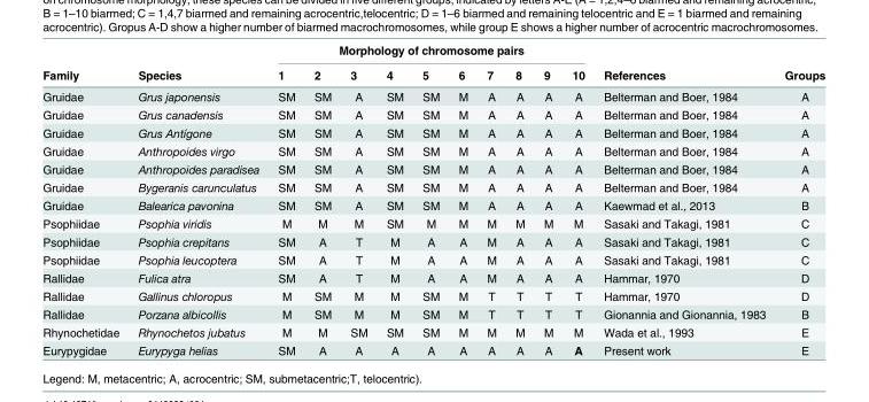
<table><thead><tr><td rowspan="2">Family</td><td rowspan="2">Species</td><td colspan="10">Morphology of chromosome pairs</td><td rowspan="2">References</td><td rowspan="2">Groups</td></tr><tr><td>1</td><td>2</td><td>3</td><td>4</td><td>5</td><td>6</td><td>7</td><td>8</td><td>9</td><td>10</td></tr></thead><tbody><tr><td>Gruidae</td><td>Grus japonensis</td><td>SM</td><td>SM</td><td>A</td><td>SM</td><td>SM</td><td>M</td><td>A</td><td>A</td><td>A</td><td>A</td><td>Belterman and Boer, 1984</td><td>A</td></tr><tr><td>Gruidae</td><td>Grus canadensis</td><td>SM</td><td>SM</td><td>A</td><td>SM</td><td>SM</td><td>M</td><td>A</td><td>A</td><td>A</td><td>A</td><td>Belterman and Boer, 1984</td><td>A</td></tr><tr><td>Gruidae</td><td>Grus Antígone</td><td>SM</td><td>SM</td><td>A</td><td>SM</td><td>SM</td><td>M</td><td>A</td><td>A</td><td>A</td><td>A</td><td>Belterman and Boer, 1984</td><td>A</td></tr><tr><td>Gruidae</td><td>Anthropoides virgo</td><td>SM</td><td>SM</td><td>A</td><td>SM</td><td>SM</td><td>M</td><td>A</td><td>A</td><td>A</td><td>A</td><td>Belterman and Boer, 1984</td><td>A</td></tr><tr><td>Gruidae</td><td>Anthropoides paradisea</td><td>SM</td><td>SM</td><td>A</td><td>SM</td><td>SM</td><td>M</td><td>A</td><td>A</td><td>A</td><td>A</td><td>Belterman and Boer, 1984</td><td>A</td></tr><tr><td>Gruidae</td><td>Bygeranis carunculatus</td><td>SM</td><td>SM</td><td>A</td><td>SM</td><td>SM</td><td>M</td><td>A</td><td>A</td><td>A</td><td>A</td><td>Belterman and Boer, 1984</td><td>A</td></tr><tr><td>Gruidae</td><td>Balearica pavonina</td><td>SM</td><td>SM</td><td>A</td><td>SM</td><td>SM</td><td>M</td><td>A</td><td>A</td><td>A</td><td>A</td><td>Kaewmad et al., 2013</td><td>B</td></tr><tr><td>Psophiidae</td><td>Psophia viridis</td><td>M</td><td>M</td><td>M</td><td>SM</td><td>M</td><td>M</td><td>M</td><td>M</td><td>M</td><td>M</td><td>Sasaki and Takagi, 1981</td><td>C</td></tr><tr><td>Psophiidae</td><td>Psophia crepitans</td><td>SM</td><td>A</td><td>T</td><td>M</td><td>A</td><td>A</td><td>M</td><td>A</td><td>A</td><td>A</td><td>Sasaki and Takagi, 1981</td><td>C</td></tr><tr><td>Psophiidae</td><td>Psophia leucoptera</td><td>SM</td><td>A</td><td>T</td><td>M</td><td>A</td><td>A</td><td>M</td><td>A</td><td>A</td><td>A</td><td>Sasaki and Takagi, 1981</td><td>C</td></tr><tr><td>Rallidae</td><td>Fulica atra</td><td>SM</td><td>A</td><td>T</td><td>M</td><td>A</td><td>A</td><td>M</td><td>A</td><td>A</td><td>A</td><td>Hammar, 1970</td><td>D</td></tr><tr><td>Rallidae</td><td>Gallinus chloropus</td><td>M</td><td>SM</td><td>M</td><td>M</td><td>SM</td><td>M</td><td>T</td><td>T</td><td>T</td><td>T</td><td>Hammar, 1970</td><td>D</td></tr><tr><td>Rallidae</td><td>Porzana albicollis</td><td>M</td><td>SM</td><td>M</td><td>M</td><td>SM</td><td>M</td><td>T</td><td>T</td><td>T</td><td>T</td><td>Gionannia and Gionannia, 1983</td><td>B</td></tr><tr><td>Rhynochetidae</td><td>Rhynochetos jubatus</td><td>M</td><td>M</td><td>SM</td><td>SM</td><td>SM</td><td>M</td><td>M</td><td>M</td><td>M</td><td>M</td><td>Wada et al., 1993</td><td>E</td></tr><tr><td>Eurypygidae</td><td>Eurypyga helias</td><td>SM</td><td>A</td><td>A</td><td>A</td><td>A</td><td>A</td><td>A</td><td>A</td><td>A</td><td>A</td><td>Present work</td><td>E</td></tr></tbody></table>